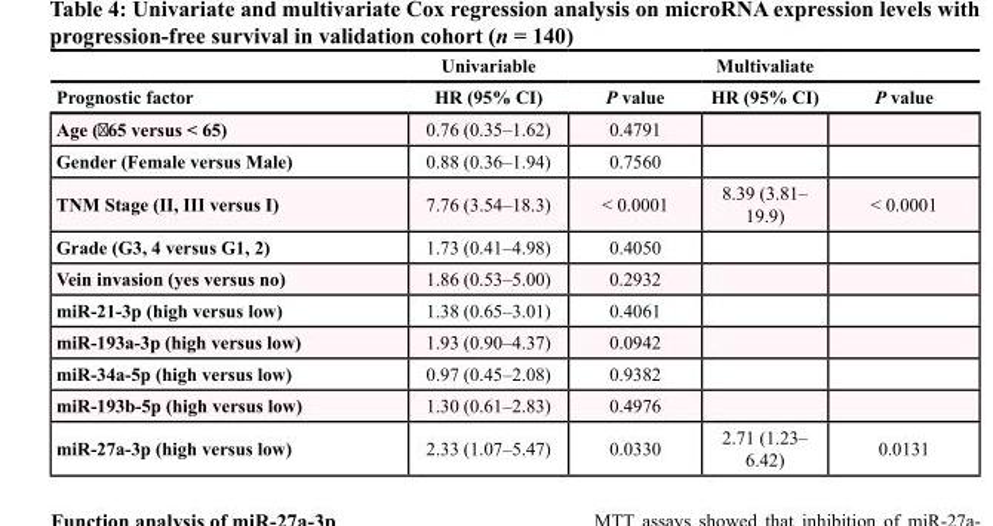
<table><thead><tr><td rowspan="2">Prognostic factor</td><td rowspan="2">Univariable HR (95% CI)</td><td rowspan="2">P value</td><td rowspan="2">Multivaliate HR (95% CI)</td><td rowspan="2">P value</td></tr><tr></tr></thead><tbody><tr><td>Age (≧65 versus &lt; 65)</td><td>0.76 (0.35–1.62)</td><td>0.4791</td><td></td><td></td></tr><tr><td>Gender (Female versus Male)</td><td>0.88 (0.36–1.94)</td><td>0.7560</td><td></td><td></td></tr><tr><td>TNM Stage (II, III versus I)</td><td>7.76 (3.54–18.3)</td><td>&lt; 0.0001</td><td>8.39 (3.81– 19.9)</td><td>&lt; 0.0001</td></tr><tr><td>Grade (G3, 4 versus G1, 2)</td><td>1.73 (0.41–4.98)</td><td>0.4050</td><td></td><td></td></tr><tr><td>Vein invasion (yes versus no)</td><td>1.86 (0.53–5.00)</td><td>0.2932</td><td></td><td></td></tr><tr><td>miR-21-3p (high versus low)</td><td>1.38 (0.65–3.01)</td><td>0.4061</td><td></td><td></td></tr><tr><td>miR-193a-3p (high versus low)</td><td>1.93 (0.90–4.37)</td><td>0.0942</td><td></td><td></td></tr><tr><td>miR-34a-5p (high versus low)</td><td>0.97 (0.45–2.08)</td><td>0.9382</td><td></td><td></td></tr><tr><td>miR-193b-5p (high versus low)</td><td>1.30 (0.61–2.83)</td><td>0.4976</td><td></td><td></td></tr><tr><td>miR-27a-3p (high versus low)</td><td>2.33 (1.07–5.47)</td><td>0.0330</td><td>2.71 (1.23– 6.42)</td><td>0.0131</td></tr></tbody></table>